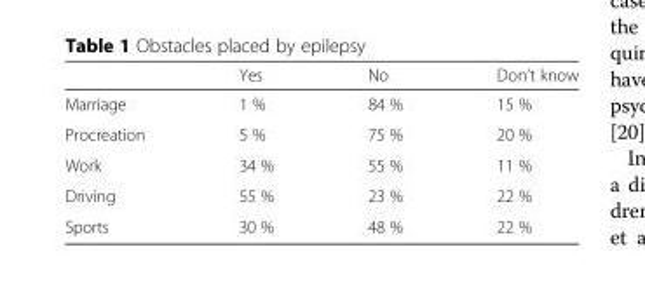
<table><thead><tr><td></td><td>Yes</td><td>No</td><td>Don’t know</td></tr></thead><tbody><tr><td>Marriage</td><td>1 %</td><td>84 %</td><td>15 %</td></tr><tr><td>Procreation</td><td>5 %</td><td>75 %</td><td>20 %</td></tr><tr><td>Work</td><td>34 %</td><td>55 %</td><td>11 %</td></tr><tr><td>Driving</td><td>55 %</td><td>23 %</td><td>22 %</td></tr><tr><td>Sports</td><td>30 %</td><td>48 %</td><td>22 %</td></tr></tbody></table>